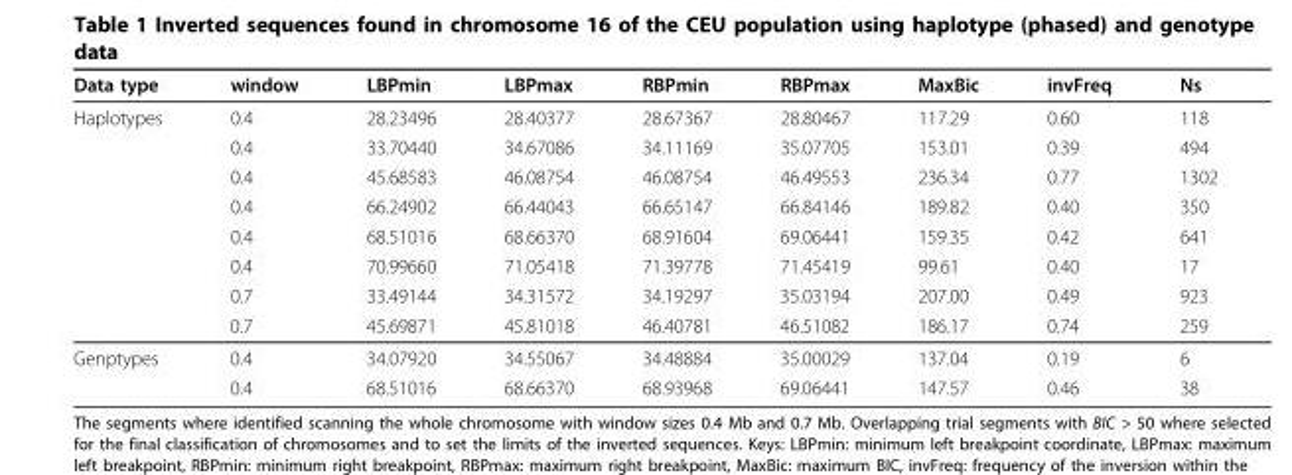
<table><thead><tr><td>Data type</td><td>window</td><td>LBPmin</td><td>LBPmax</td><td>RBPmin</td><td>RBPmax</td><td>MaxBic</td><td>invFreq</td><td>Ns</td></tr></thead><tbody><tr><td rowspan="8">Haplotypes</td><td>0.4</td><td>28.23496</td><td>28.40377</td><td>28.67367</td><td>28.80467</td><td>117.29</td><td>0.60</td><td>118</td></tr><tr><td>0.4</td><td>33.70440</td><td>34.67086</td><td>34.11169</td><td>35.07705</td><td>153.01</td><td>0.39</td><td>494</td></tr><tr><td>0.4</td><td>45.68583</td><td>46.08754</td><td>46.08754</td><td>46.49553</td><td>236.34</td><td>0.77</td><td>1302</td></tr><tr><td>0.4</td><td>66.24902</td><td>66.44043</td><td>66.65147</td><td>66.84146</td><td>189.82</td><td>0.40</td><td>350</td></tr><tr><td>0.4</td><td>68.51016</td><td>68.66370</td><td>68.91604</td><td>69.06441</td><td>159.35</td><td>0.42</td><td>641</td></tr><tr><td>0.4</td><td>70.99660</td><td>71.05418</td><td>71.39778</td><td>71.45419</td><td>99.61</td><td>0.40</td><td>17</td></tr><tr><td>0.7</td><td>33.49144</td><td>34.31572</td><td>34.19297</td><td>35.03194</td><td>207.00</td><td>0.49</td><td>923</td></tr><tr><td>0.7</td><td>45.69871</td><td>45.81018</td><td>46.40781</td><td>46.51082</td><td>186.17</td><td>0.74</td><td>259</td></tr><tr><td rowspan="2">Genptypes</td><td>0.4</td><td>34.07920</td><td>34.55067</td><td>34.48884</td><td>35.00029</td><td>137.04</td><td>0.19</td><td>6</td></tr><tr><td>0.4</td><td>68.51016</td><td>68.66370</td><td>68.93968</td><td>69.06441</td><td>147.57</td><td>0.46</td><td>38</td></tr></tbody></table>